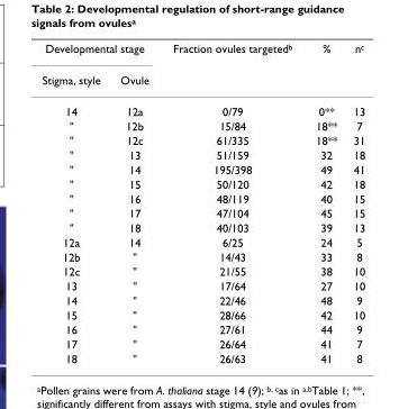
<table><thead><tr><td colspan="2">Developmental stage</td><td rowspan="2">Fraction ovules targetedb</td><td rowspan="2">%</td><td rowspan="2">nc</td></tr><tr><td>Stigma, style</td><td>Ovule</td></tr></thead><tbody><tr><td>14</td><td>12a</td><td>0/79</td><td>0**</td><td>13</td></tr><tr><td>&quot;</td><td>12b</td><td>15/84</td><td>18**</td><td>7</td></tr><tr><td>&quot;</td><td>12c</td><td>61/335</td><td>18**</td><td>31</td></tr><tr><td>&quot;</td><td>13</td><td>51/159</td><td>32</td><td>18</td></tr><tr><td>&quot;</td><td>14</td><td>195/398</td><td>49</td><td>41</td></tr><tr><td>&quot;</td><td>15</td><td>50/120</td><td>42</td><td>18</td></tr><tr><td>&quot;</td><td>16</td><td>48/119</td><td>40</td><td>15</td></tr><tr><td>&quot;</td><td>17</td><td>47/104</td><td>45</td><td>15</td></tr><tr><td>&quot;</td><td>18</td><td>40/103</td><td>39</td><td>13</td></tr><tr><td>12a</td><td>14</td><td>6/25</td><td>24</td><td>5</td></tr><tr><td>12b</td><td>&quot;</td><td>14/43</td><td>33</td><td>8</td></tr><tr><td>12c</td><td>&quot;</td><td>21/55</td><td>38</td><td>10</td></tr><tr><td>13</td><td>&quot;</td><td>17/64</td><td>27</td><td>10</td></tr><tr><td>14</td><td>&quot;</td><td>22/46</td><td>48</td><td>9</td></tr><tr><td>15</td><td>&quot;</td><td>28/66</td><td>42</td><td>10</td></tr><tr><td>16</td><td>&quot;</td><td>27/61</td><td>44</td><td>9</td></tr><tr><td>17</td><td>&quot;</td><td>26/64</td><td>41</td><td>7</td></tr><tr><td>18</td><td>&quot;</td><td>26/63</td><td>41</td><td>8</td></tr></tbody></table>